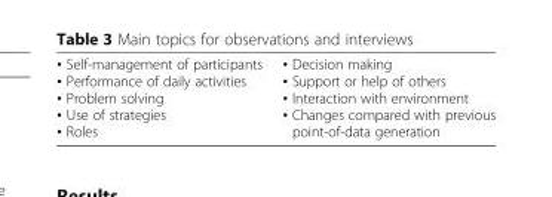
<table><tbody><tr><td>• Self-management of participants • Performance of daily activities • Problem solving • Use of strategies • Roles</td><td>• Decision making • Support or help of others • Interaction with environment • Changes compared with previous point-of-data generation</td></tr></tbody></table>